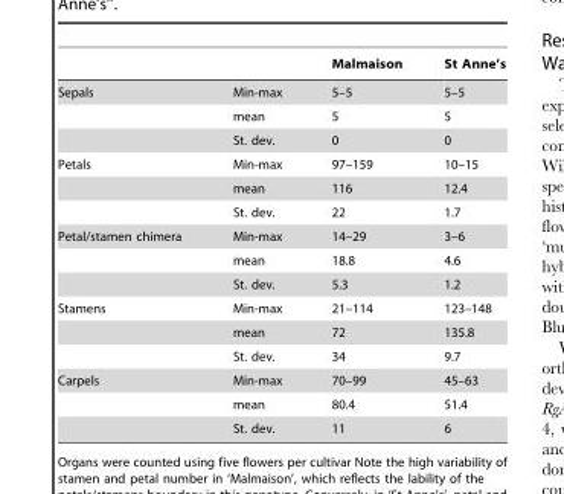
<table><thead><tr><td></td><td></td><td>Malmaison</td><td>St Anne’s</td></tr></thead><tbody><tr><td rowspan="3">Sepals</td><td>Min-max</td><td>5–5</td><td>5–5</td></tr><tr><td>mean</td><td>5</td><td>5</td></tr><tr><td>St. dev.</td><td>0</td><td>0</td></tr><tr><td rowspan="3">Petals</td><td>Min-max</td><td>97–159</td><td>10–15</td></tr><tr><td>mean</td><td>116</td><td>12.4</td></tr><tr><td>St. dev.</td><td>22</td><td>1.7</td></tr><tr><td rowspan="3">Petal/stamen chimera</td><td>Min-max</td><td>14–29</td><td>3–6</td></tr><tr><td>mean</td><td>18.8</td><td>4.6</td></tr><tr><td>St. dev.</td><td>5.3</td><td>1.2</td></tr><tr><td rowspan="3">Stamens</td><td>Min-max</td><td>21–114</td><td>123–148</td></tr><tr><td>mean</td><td>72</td><td>135.8</td></tr><tr><td>St. dev.</td><td>34</td><td>9.7</td></tr><tr><td rowspan="3">Carpels</td><td>Min-max</td><td>70–99</td><td>45–63</td></tr><tr><td>mean</td><td>80.4</td><td>51.4</td></tr><tr><td>St. dev.</td><td>11</td><td>6</td></tr></tbody></table>